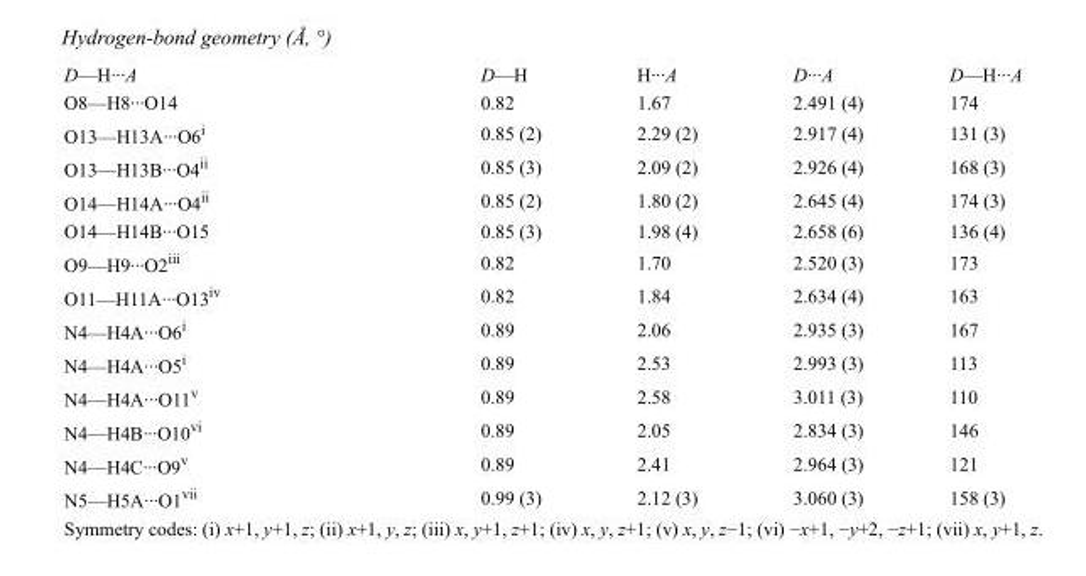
<table><tbody><tr><td>D—H···A</td><td>D—H</td><td>H···A</td><td>D···A</td><td>D—H···A</td></tr><tr><td>O8—H8···O14</td><td>0.82</td><td>1.67</td><td>2.491 (4)</td><td>174</td></tr><tr><td>O13—H13A···O6<sup>i</sup></td><td>0.85 (2)</td><td>2.29 (2)</td><td>2.917 (4)</td><td>131 (3)</td></tr><tr><td>O13—H13B···O4<sup>ii</sup></td><td>0.85 (3)</td><td>2.09 (2)</td><td>2.926 (4)</td><td>168 (3)</td></tr><tr><td>O14—H14A···O4<sup>ii</sup></td><td>0.85 (2)</td><td>1.80 (2)</td><td>2.645 (4)</td><td>174 (3)</td></tr><tr><td>O14—H14B···O15</td><td>0.85 (3)</td><td>1.98 (4)</td><td>2.658 (6)</td><td>136 (4)</td></tr><tr><td>O9—H9···O2<sup>iii</sup></td><td>0.82</td><td>1.70</td><td>2.520 (3)</td><td>173</td></tr><tr><td>O11—H11A···O13<sup>iv</sup></td><td>0.82</td><td>1.84</td><td>2.634 (4)</td><td>163</td></tr><tr><td>N4—H4A···O6<sup>i</sup></td><td>0.89</td><td>2.06</td><td>2.935 (3)</td><td>167</td></tr><tr><td>N4—H4A···O5<sup>i</sup></td><td>0.89</td><td>2.53</td><td>2.993 (3)</td><td>113</td></tr><tr><td>N4—H4A···O11<sup>v</sup></td><td>0.89</td><td>2.58</td><td>3.011 (3)</td><td>110</td></tr><tr><td>N4—H4B···O10<sup>vi</sup></td><td>0.89</td><td>2.05</td><td>2.834 (3)</td><td>146</td></tr><tr><td>N4—H4C···O9<sup>v</sup></td><td>0.89</td><td>2.41</td><td>2.964 (3)</td><td>121</td></tr><tr><td>N5—H5A···O1<sup>vii</sup></td><td>0.99 (3)</td><td>2.12 (3)</td><td>3.060 (3)</td><td>158 (3)</td></tr></tbody></table>